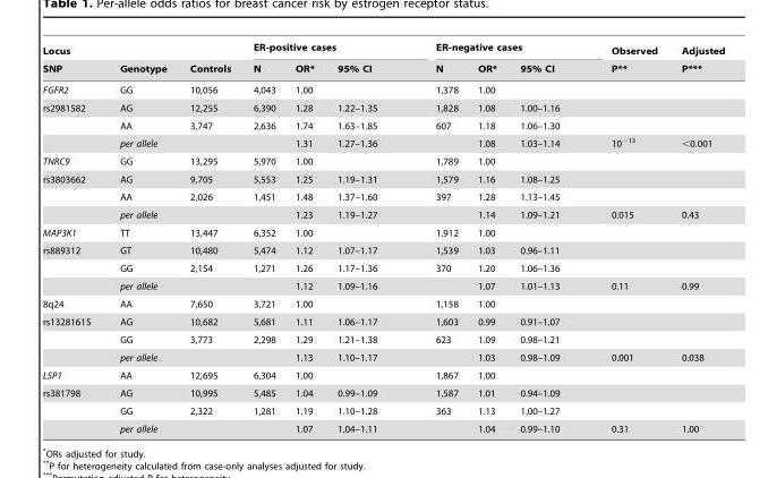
<table><thead><tr><td rowspan="2">Locus SNP</td><td rowspan="2">Genotype</td><td rowspan="2">Controls</td><td colspan="3">ER-positive cases</td><td colspan="3">ER-negative cases</td><td rowspan="2">Observed P**</td><td rowspan="2">Adjusted P***</td></tr><tr><td>N</td><td>OR*</td><td>95% CI</td><td>N</td><td>OR*</td><td>95% CI</td></tr></thead><tbody><tr><td>FGFR2</td><td>GG</td><td>10,056</td><td>4,043</td><td>1.00</td><td></td><td>1,378</td><td>1.00</td><td></td><td></td><td></td></tr><tr><td rowspan="3">rs2981582</td><td>AG</td><td>12,255</td><td>6,390</td><td>1.28</td><td>1.22–1.35</td><td>1,828</td><td>1.08</td><td>1.00–1.16</td><td></td><td></td></tr><tr><td>AA</td><td>3,747</td><td>2,636</td><td>1.74</td><td>1.63–1.85</td><td>607</td><td>1.18</td><td>1.06–1.30</td><td></td><td></td></tr><tr><td>per allele</td><td></td><td></td><td>1.31</td><td>1.27–1.36</td><td></td><td>1.08</td><td>1.03–1.14</td><td>10<sup>−13</sup></td><td>&lt;0.001</td></tr><tr><td>TNRC9</td><td>GG</td><td>13,295</td><td>5,970</td><td>1.00</td><td></td><td>1,789</td><td>1.00</td><td></td><td></td><td></td></tr><tr><td rowspan="3">rs3803662</td><td>AG</td><td>9,705</td><td>5,553</td><td>1.25</td><td>1.19–1.31</td><td>1,579</td><td>1.16</td><td>1.08–1.25</td><td></td><td></td></tr><tr><td>AA</td><td>2,026</td><td>1,451</td><td>1.48</td><td>1.37–1.60</td><td>397</td><td>1.28</td><td>1.13–1.45</td><td></td><td></td></tr><tr><td>per allele</td><td></td><td></td><td>1.23</td><td>1.19–1.27</td><td></td><td>1.14</td><td>1.09–1.21</td><td>0.015</td><td>0.43</td></tr><tr><td>MAP3K1</td><td>TT</td><td>13,447</td><td>6,352</td><td>1.00</td><td></td><td>1,912</td><td>1.00</td><td></td><td></td><td></td></tr><tr><td rowspan="3">rs889312</td><td>GT</td><td>10,480</td><td>5,474</td><td>1.12</td><td>1.07–1.17</td><td>1,539</td><td>1.03</td><td>0.96–1.11</td><td></td><td></td></tr><tr><td>GG</td><td>2,154</td><td>1,271</td><td>1.26</td><td>1.17–1.36</td><td>370</td><td>1.20</td><td>1.06–1.36</td><td></td><td></td></tr><tr><td>per allele</td><td></td><td></td><td>1.12</td><td>1.09–1.16</td><td></td><td>1.07</td><td>1.01–1.13</td><td>0.11</td><td>0.99</td></tr><tr><td>8q24</td><td>AA</td><td>7,650</td><td>3,721</td><td>1.00</td><td></td><td>1,158</td><td>1.00</td><td></td><td></td><td></td></tr><tr><td rowspan="3">rs13281615</td><td>AG</td><td>10,682</td><td>5,681</td><td>1.11</td><td>1.06–1.17</td><td>1,603</td><td>0.99</td><td>0.91–1.07</td><td></td><td></td></tr><tr><td>GG</td><td>3,773</td><td>2,298</td><td>1.29</td><td>1.21–1.38</td><td>623</td><td>1.09</td><td>0.98–1.21</td><td></td><td></td></tr><tr><td>per allele</td><td></td><td></td><td>1.13</td><td>1.10–1.17</td><td></td><td>1.03</td><td>0.98–1.09</td><td>0.001</td><td>0.038</td></tr><tr><td>LSP1</td><td>AA</td><td>12,695</td><td>6,304</td><td>1.00</td><td></td><td>1,867</td><td>1.00</td><td></td><td></td><td></td></tr><tr><td rowspan="3">rs381798</td><td>AG</td><td>10,995</td><td>5,485</td><td>1.04</td><td>0.99–1.09</td><td>1,587</td><td>1.01</td><td>0.94–1.09</td><td></td><td></td></tr><tr><td>GG</td><td>2,322</td><td>1,281</td><td>1.19</td><td>1.10–1.28</td><td>363</td><td>1.13</td><td>1.00–1.27</td><td></td><td></td></tr><tr><td>per allele</td><td></td><td></td><td>1.07</td><td>1.04–1.11</td><td></td><td>1.04</td><td>0.99–1.10</td><td>0.31</td><td>1.00</td></tr></tbody></table>